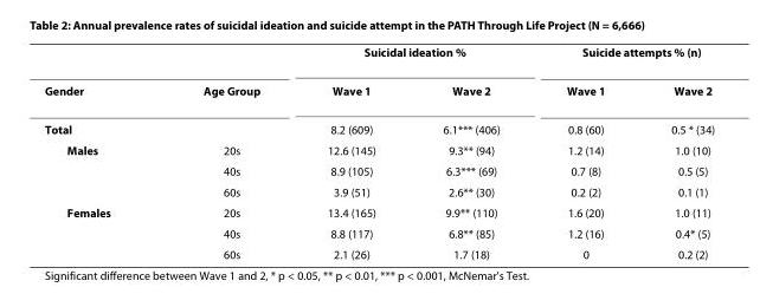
<table><thead><tr><td rowspan="2">Gender</td><td rowspan="2">Age Group</td><td colspan="2">Suicidal ideation %</td><td colspan="2">Suicide attempts % (n)</td></tr><tr><td>Wave 1</td><td>Wave 2</td><td>Wave 1</td><td>Wave 2</td></tr></thead><tbody><tr><td>Total</td><td></td><td>8.2 (609)</td><td>6.1*** (406)</td><td>0.8 (60)</td><td>0.5 * (34)</td></tr><tr><td rowspan="3">Males</td><td>20s</td><td>12.6 (145)</td><td>9.3** (94)</td><td>1.2 (14)</td><td>1.0 (10)</td></tr><tr><td>40s</td><td>8.9 (105)</td><td>6.3*** (69)</td><td>0.7 (8)</td><td>0.5 (5)</td></tr><tr><td>60s</td><td>3.9 (51)</td><td>2.6** (30)</td><td>0.2 (2)</td><td>0.1 (1)</td></tr><tr><td rowspan="3">Females</td><td>20s</td><td>13.4 (165)</td><td>9.9** (110)</td><td>1.6 (20)</td><td>1.0 (11)</td></tr><tr><td>40s</td><td>8.8 (117)</td><td>6.8** (85)</td><td>1.2 (16)</td><td>0.4* (5)</td></tr><tr><td>60s</td><td>2.1 (26)</td><td>1.7 (18)</td><td>0</td><td>0.2 (2)</td></tr></tbody></table>